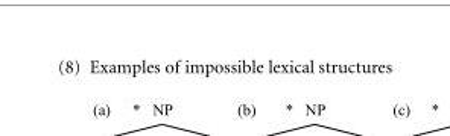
<table><tbody><tr><td>(8)</td><td>Examples of impossible lexical structures</td></tr></tbody></table>